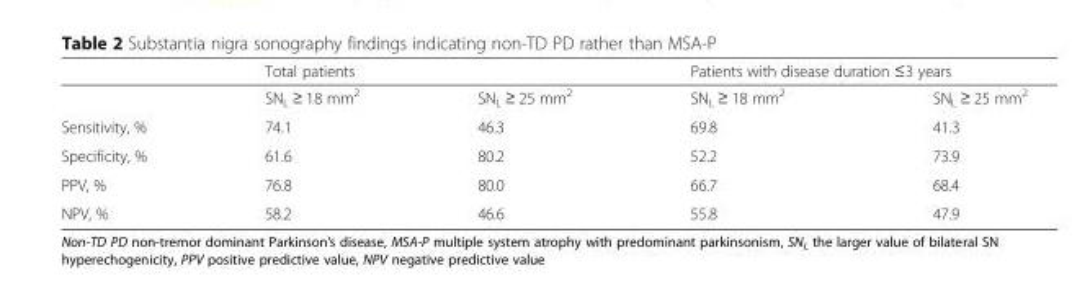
<table><thead><tr><td rowspan="2"></td><td colspan="2">Total patients</td><td colspan="2">Patients with disease duration ≤3 years</td></tr><tr><td>SN<sub>L</sub> ≥ 18 mm<sup>2</sup></td><td>SN<sub>L</sub> ≥ 25 mm<sup>2</sup></td><td>SN<sub>L</sub> ≥ 18 mm<sup>2</sup></td><td>SN<sub>L</sub> ≥ 25 mm<sup>2</sup></td></tr></thead><tbody><tr><td>Sensitivity, %</td><td>74.1</td><td>46.3</td><td>69.8</td><td>41.3</td></tr><tr><td>Specificity, %</td><td>61.6</td><td>80.2</td><td>52.2</td><td>73.9</td></tr><tr><td>PPV, %</td><td>76.8</td><td>80.0</td><td>66.7</td><td>68.4</td></tr><tr><td>NPV, %</td><td>58.2</td><td>46.6</td><td>55.8</td><td>47.9</td></tr></tbody></table>